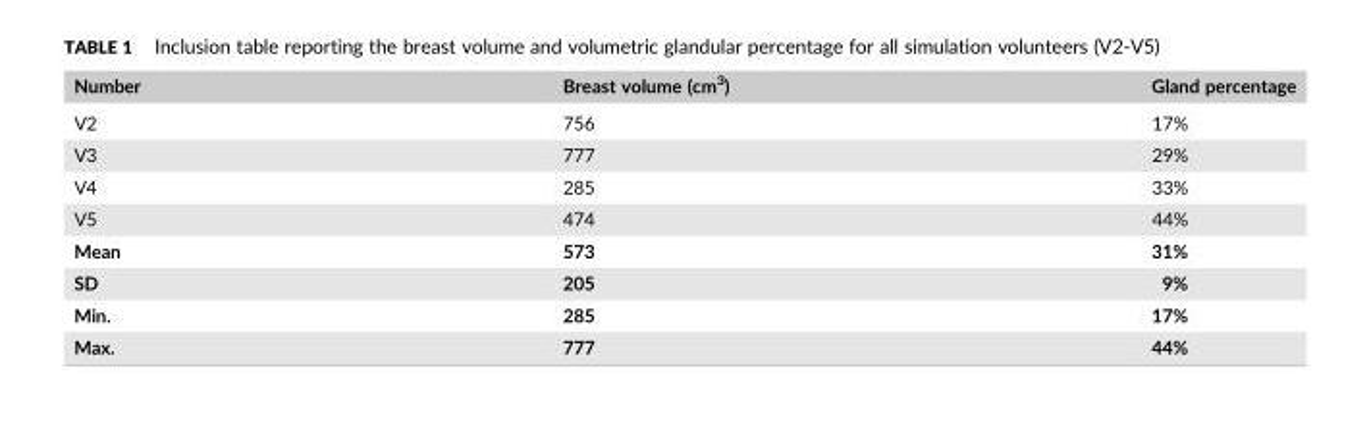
<table><thead><tr><td>Number</td><td>Breast volume (cm<sup>3</sup>)</td><td>Gland percentage</td></tr></thead><tbody><tr><td>V2</td><td>756</td><td>17%</td></tr><tr><td>V3</td><td>777</td><td>29%</td></tr><tr><td>V4</td><td>285</td><td>33%</td></tr><tr><td>V5</td><td>474</td><td>44%</td></tr><tr><td>Mean</td><td>573</td><td>31%</td></tr><tr><td>SD</td><td>205</td><td>9%</td></tr><tr><td>Min.</td><td>285</td><td>17%</td></tr><tr><td>Max.</td><td>777</td><td>44%</td></tr></tbody></table>